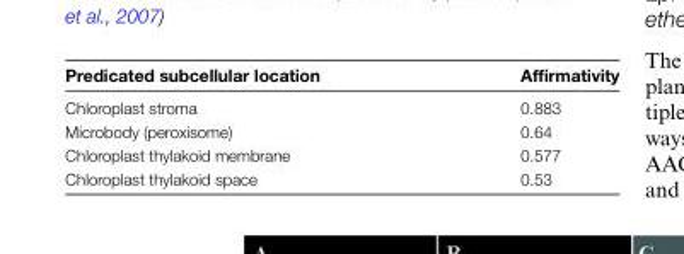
<table><thead><tr><td>Predicated subcellular location</td><td>Affirmativity</td></tr></thead><tbody><tr><td>Chloroplast stroma</td><td>0.883</td></tr><tr><td>Microbody (peroxisome)</td><td>0.64</td></tr><tr><td>Chloroplast thylakoid membrane</td><td>0.577</td></tr><tr><td>Chloroplast thylakoid space</td><td>0.53</td></tr></tbody></table>